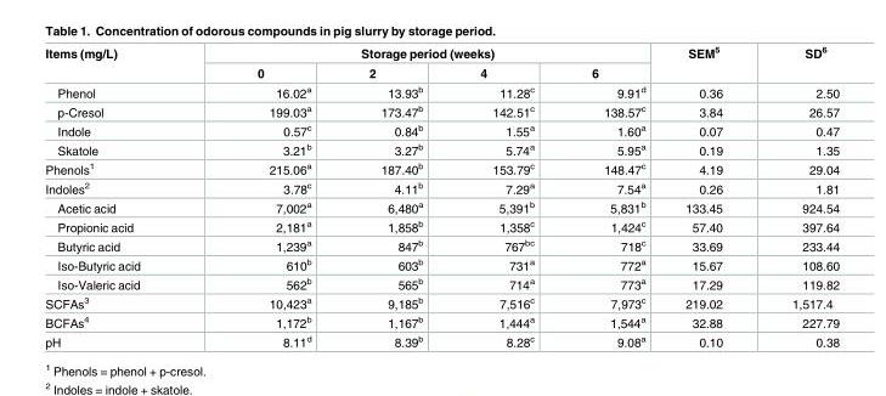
<table><thead><tr><td rowspan="2">Items (mg/L)</td><td colspan="4">Storage period (weeks)</td><td rowspan="2">SEM<sup>5</sup></td><td rowspan="2">SD<sup>6</sup></td></tr><tr><td>0</td><td>2</td><td>4</td><td>6</td></tr></thead><tbody><tr><td>Phenol</td><td>16.02<sup>a</sup></td><td>13.93<sup>b</sup></td><td>11.28<sup>c</sup></td><td>9.91<sup>d</sup></td><td>0.36</td><td>2.50</td></tr><tr><td>p-Cresol</td><td>199.03<sup>a</sup></td><td>173.47<sup>b</sup></td><td>142.51<sup>c</sup></td><td>138.57<sup>c</sup></td><td>3.84</td><td>26.57</td></tr><tr><td>Indole</td><td>0.57<sup>c</sup></td><td>0.84<sup>b</sup></td><td>1.55<sup>a</sup></td><td>1.60<sup>a</sup></td><td>0.07</td><td>0.47</td></tr><tr><td>Skatole</td><td>3.21<sup>b</sup></td><td>3.27<sup>b</sup></td><td>5.74<sup>a</sup></td><td>5.95<sup>a</sup></td><td>0.19</td><td>1.35</td></tr><tr><td>Phenols<sup>1</sup></td><td>215.06<sup>a</sup></td><td>187.40<sup>b</sup></td><td>153.79<sup>c</sup></td><td>148.47<sup>c</sup></td><td>4.19</td><td>29.04</td></tr><tr><td>Indoles<sup>2</sup></td><td>3.78<sup>c</sup></td><td>4.11<sup>b</sup></td><td>7.29<sup>a</sup></td><td>7.54<sup>a</sup></td><td>0.26</td><td>1.81</td></tr><tr><td>Acetic acid</td><td>7,002<sup>a</sup></td><td>6,480<sup>a</sup></td><td>5,391<sup>b</sup></td><td>5,831<sup>b</sup></td><td>133.45</td><td>924.54</td></tr><tr><td>Propionic acid</td><td>2,181<sup>a</sup></td><td>1,858<sup>b</sup></td><td>1,358<sup>c</sup></td><td>1,424<sup>c</sup></td><td>57.40</td><td>397.64</td></tr><tr><td>Butyric acid</td><td>1,239<sup>a</sup></td><td>847<sup>b</sup></td><td>767<sup>bc</sup></td><td>718<sup>c</sup></td><td>33.69</td><td>233.44</td></tr><tr><td>Iso-Butyric acid</td><td>610<sup>b</sup></td><td>603<sup>b</sup></td><td>731<sup>a</sup></td><td>772<sup>a</sup></td><td>15.67</td><td>108.60</td></tr><tr><td>Iso-Valeric acid</td><td>562<sup>b</sup></td><td>565<sup>b</sup></td><td>714<sup>a</sup></td><td>773<sup>a</sup></td><td>17.29</td><td>119.82</td></tr><tr><td>SCFAs<sup>3</sup></td><td>10,423<sup>a</sup></td><td>9,185<sup>b</sup></td><td>7,516<sup>c</sup></td><td>7,973<sup>c</sup></td><td>219.02</td><td>1,517.4</td></tr><tr><td>BCFAs<sup>4</sup></td><td>1,172<sup>b</sup></td><td>1,167<sup>b</sup></td><td>1,444<sup>a</sup></td><td>1,544<sup>a</sup></td><td>32.88</td><td>227.79</td></tr><tr><td>pH</td><td>8.11<sup>d</sup></td><td>8.39<sup>b</sup></td><td>8.28<sup>c</sup></td><td>9.08<sup>a</sup></td><td>0.10</td><td>0.38</td></tr></tbody></table>